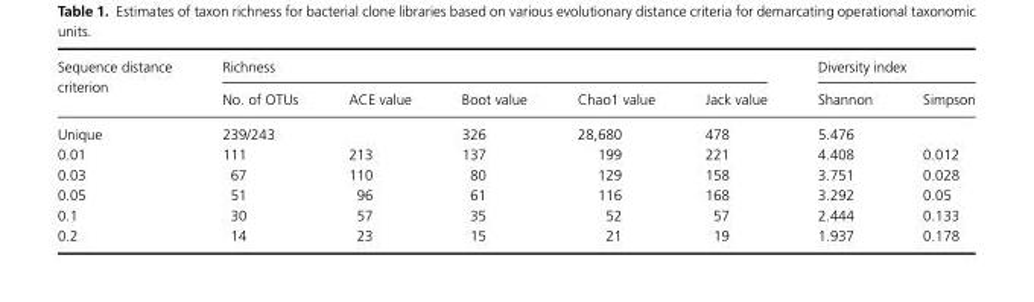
<table><thead><tr><td rowspan="2">Sequence distance criterion</td><td colspan="5">Richness</td><td colspan="2">Diversity index</td></tr><tr><td>No. of OTUs</td><td>ACE value</td><td>Boot value</td><td>Chao1 value</td><td>Jack value</td><td>Shannon</td><td>Simpson</td></tr></thead><tbody><tr><td>Unique</td><td>239/243</td><td></td><td>326</td><td>28,680</td><td>478</td><td>5.476</td><td></td></tr><tr><td>0.01</td><td>111</td><td>213</td><td>137</td><td>199</td><td>221</td><td>4.408</td><td>0.012</td></tr><tr><td>0.03</td><td>67</td><td>110</td><td>80</td><td>129</td><td>158</td><td>3.751</td><td>0.028</td></tr><tr><td>0.05</td><td>51</td><td>96</td><td>61</td><td>116</td><td>168</td><td>3.292</td><td>0.05</td></tr><tr><td>0.1</td><td>30</td><td>57</td><td>35</td><td>52</td><td>57</td><td>2.444</td><td>0.133</td></tr><tr><td>0.2</td><td>14</td><td>23</td><td>15</td><td>21</td><td>19</td><td>1.937</td><td>0.178</td></tr></tbody></table>